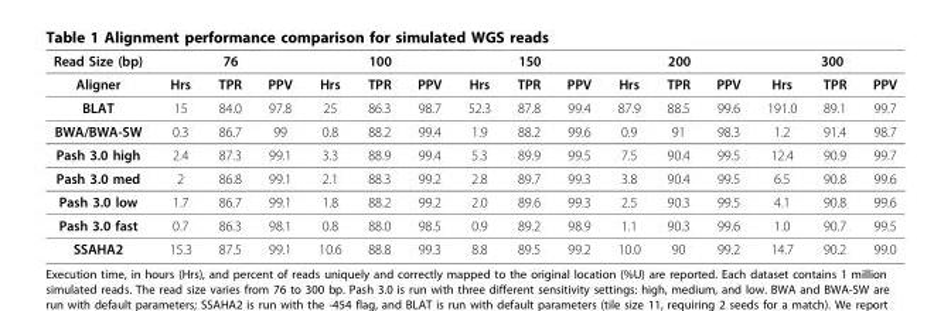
<table><thead><tr><td rowspan="2">Read Size (bp) Aligner</td><td colspan="3">76</td><td colspan="3">100</td><td colspan="3">150</td><td colspan="3">200</td><td colspan="3">300</td></tr><tr><td>Hrs</td><td>TPR</td><td>PPV</td><td>Hrs</td><td>TPR</td><td>PPV</td><td>Hrs</td><td>TPR</td><td>PPV</td><td>Hrs</td><td>TPR</td><td>PPV</td><td>Hrs</td><td>TPR</td><td>PPV</td></tr></thead><tbody><tr><td>BLAT</td><td>15</td><td>84.0</td><td>97.8</td><td>25</td><td>86.3</td><td>98.7</td><td>52.3</td><td>87.8</td><td>99.4</td><td>87.9</td><td>88.5</td><td>99.6</td><td>191.0</td><td>89.1</td><td>99.7</td></tr><tr><td>BWA/BWA-SW</td><td>0.3</td><td>86.7</td><td>99</td><td>0.8</td><td>88.2</td><td>99.4</td><td>1.9</td><td>88.2</td><td>99.6</td><td>0.9</td><td>91</td><td>98.3</td><td>1.2</td><td>91.4</td><td>98.7</td></tr><tr><td>Pash 3.0 high</td><td>2.4</td><td>87.3</td><td>99.1</td><td>3.3</td><td>88.9</td><td>99.4</td><td>5.3</td><td>89.9</td><td>99.5</td><td>7.5</td><td>90.4</td><td>99.5</td><td>12.4</td><td>90.9</td><td>99.7</td></tr><tr><td>Pash 3.0 med</td><td>2</td><td>86.8</td><td>99.1</td><td>2.1</td><td>88.3</td><td>99.2</td><td>2.8</td><td>89.7</td><td>99.3</td><td>3.8</td><td>90.4</td><td>99.5</td><td>6.5</td><td>90.8</td><td>99.6</td></tr><tr><td>Pash 3.0 low</td><td>1.7</td><td>86.7</td><td>99.1</td><td>1.8</td><td>88.2</td><td>99.2</td><td>2.0</td><td>89.6</td><td>99.3</td><td>2.5</td><td>90.3</td><td>99.5</td><td>4.1</td><td>90.8</td><td>99.6</td></tr><tr><td>Pash 3.0 fast</td><td>0.7</td><td>86.3</td><td>98.1</td><td>0.8</td><td>88.0</td><td>98.5</td><td>0.9</td><td>89.2</td><td>98.9</td><td>1.1</td><td>90.3</td><td>99.6</td><td>1.0</td><td>90.7</td><td>99.5</td></tr><tr><td>SSAHA2</td><td>15.3</td><td>87.5</td><td>99.1</td><td>10.6</td><td>88.8</td><td>99.3</td><td>8.8</td><td>89.5</td><td>99.2</td><td>10.0</td><td>90</td><td>99.2</td><td>14.7</td><td>90.2</td><td>99.0</td></tr></tbody></table>